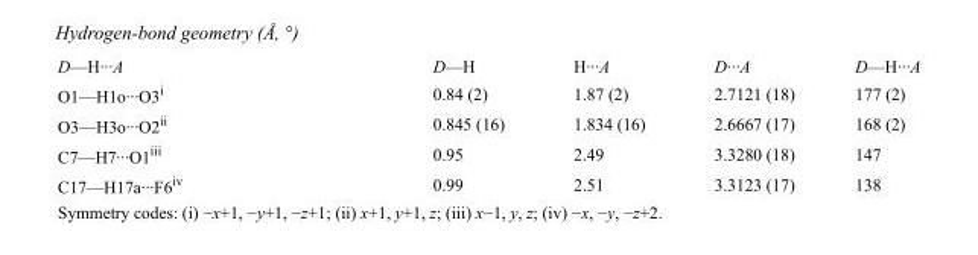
<table><tbody><tr><td>D—H···A</td><td>D—H</td><td>H···A</td><td>D···A</td><td>D—H···A</td></tr><tr><td>O1—H1o···O3<sup>i</sup></td><td>0.84 (2)</td><td>1.87 (2)</td><td>2.7121 (18)</td><td>177 (2)</td></tr><tr><td>O3—H3o···O2<sup>ii</sup></td><td>0.845 (16)</td><td>1.834 (16)</td><td>2.6667 (17)</td><td>168 (2)</td></tr><tr><td>C7—H7···O1<sup>iii</sup></td><td>0.95</td><td>2.49</td><td>3.3280 (18)</td><td>147</td></tr><tr><td>C17—H17a···F6<sup>iv</sup></td><td>0.99</td><td>2.51</td><td>3.3123 (17)</td><td>138</td></tr></tbody></table>